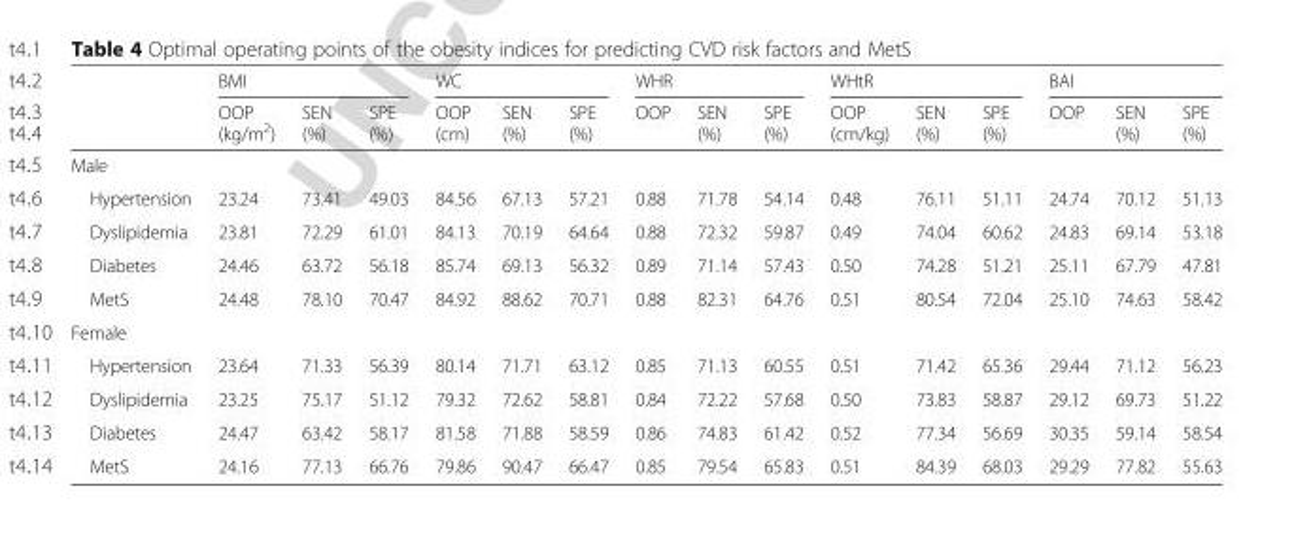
<table><thead><tr><td rowspan="2"></td><td colspan="3">BMI</td><td colspan="3">WC</td><td colspan="3">WHR</td><td colspan="3">WHtR</td><td colspan="3">BAI</td></tr><tr><td>OOP (kg/m<sup>2</sup>)</td><td>SEN (%)</td><td>SPE (%)</td><td>OOP (cm)</td><td>SEN (%)</td><td>SPE (%)</td><td>OOP</td><td>SEN (%)</td><td>SPE (%)</td><td>OOP (cm/kg)</td><td>SEN (%)</td><td>SPE (%)</td><td>OOP</td><td>SEN (%)</td><td>SPE (%)</td></tr></thead><tbody><tr><td colspan="16">Male</td></tr><tr><td>Hypertension</td><td>23.24</td><td>73.41</td><td>49.03</td><td>84.56</td><td>67.13</td><td>57.21</td><td>0.88</td><td>71.78</td><td>54.14</td><td>0.48</td><td>76.11</td><td>51.11</td><td>24.74</td><td>70.12</td><td>51.13</td></tr><tr><td>Dyslipidemia</td><td>23.81</td><td>72.29</td><td>61.01</td><td>84.13</td><td>70.19</td><td>64.64</td><td>0.88</td><td>72.32</td><td>59.87</td><td>0.49</td><td>74.04</td><td>60.62</td><td>24.83</td><td>69.14</td><td>53.18</td></tr><tr><td>Diabetes</td><td>24.46</td><td>63.72</td><td>56.18</td><td>85.74</td><td>69.13</td><td>56.32</td><td>0.89</td><td>71.14</td><td>57.43</td><td>0.50</td><td>74.28</td><td>51.21</td><td>25.11</td><td>67.79</td><td>47.81</td></tr><tr><td>MetS</td><td>24.48</td><td>78.10</td><td>70.47</td><td>84.92</td><td>88.62</td><td>70.71</td><td>0.88</td><td>82.31</td><td>64.76</td><td>0.51</td><td>80.54</td><td>72.04</td><td>25.10</td><td>74.63</td><td>58.42</td></tr><tr><td colspan="16">Female</td></tr><tr><td>Hypertension</td><td>23.64</td><td>71.33</td><td>56.39</td><td>80.14</td><td>71.71</td><td>63.12</td><td>0.85</td><td>71.13</td><td>60.55</td><td>0.51</td><td>71.42</td><td>65.36</td><td>29.44</td><td>71.12</td><td>56.23</td></tr><tr><td>Dyslipidemia</td><td>23.25</td><td>75.17</td><td>51.12</td><td>79.32</td><td>72.62</td><td>58.81</td><td>0.84</td><td>72.22</td><td>57.68</td><td>0.50</td><td>73.83</td><td>58.87</td><td>29.12</td><td>69.73</td><td>51.22</td></tr><tr><td>Diabetes</td><td>24.47</td><td>63.42</td><td>58.17</td><td>81.58</td><td>71.88</td><td>58.59</td><td>0.86</td><td>74.83</td><td>61.42</td><td>0.52</td><td>77.34</td><td>56.69</td><td>30.35</td><td>59.14</td><td>58.54</td></tr><tr><td>MetS</td><td>24.16</td><td>77.13</td><td>66.76</td><td>79.86</td><td>90.47</td><td>66.47</td><td>0.85</td><td>79.54</td><td>65.83</td><td>0.51</td><td>84.39</td><td>68.03</td><td>29.29</td><td>77.82</td><td>55.63</td></tr></tbody></table>